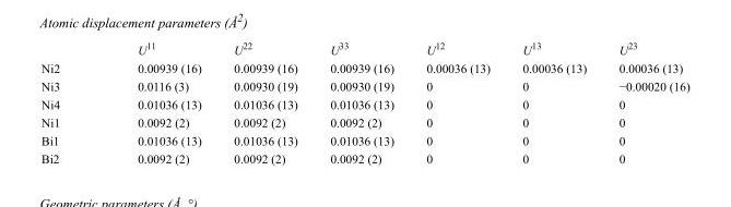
<table><thead><tr><td></td><td>U<sup>11</sup></td><td>U<sup>22</sup></td><td>U<sup>33</sup></td><td>U<sup>12</sup></td><td>U<sup>13</sup></td><td>U<sup>23</sup></td></tr></thead><tbody><tr><td>Ni2</td><td>0.00939 (16)</td><td>0.00939 (16)</td><td>0.00939 (16)</td><td>0.00036 (13)</td><td>0.00036 (13)</td><td>0.00036 (13)</td></tr><tr><td>Ni3</td><td>0.0116 (3)</td><td>0.00930 (19)</td><td>0.00930 (19)</td><td>0</td><td>0</td><td>−0.00020 (16)</td></tr><tr><td>Ni4</td><td>0.01036 (13)</td><td>0.01036 (13)</td><td>0.01036 (13)</td><td>0</td><td>0</td><td>0</td></tr><tr><td>Ni1</td><td>0.0092 (2)</td><td>0.0092 (2)</td><td>0.0092 (2)</td><td>0</td><td>0</td><td>0</td></tr><tr><td>Bi1</td><td>0.01036 (13)</td><td>0.01036 (13)</td><td>0.01036 (13)</td><td>0</td><td>0</td><td>0</td></tr><tr><td>Bi2</td><td>0.0092 (2)</td><td>0.0092 (2)</td><td>0.0092 (2)</td><td>0</td><td>0</td><td>0</td></tr></tbody></table>